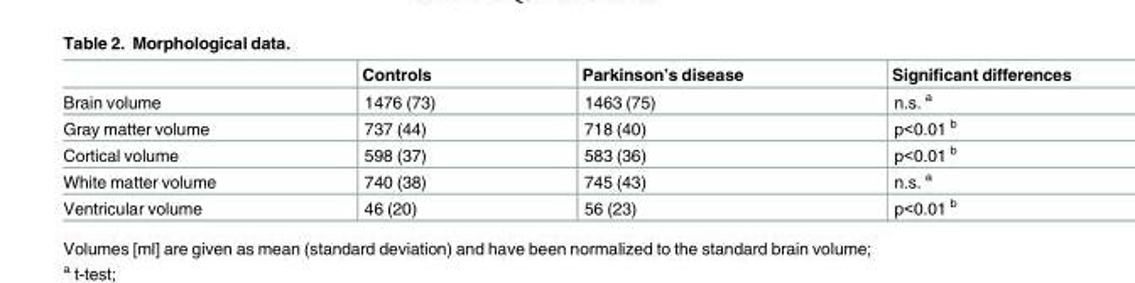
<table><thead><tr><td></td><td>Controls</td><td>Parkinson’s disease</td><td>Significant differences</td></tr></thead><tbody><tr><td>Brain volume</td><td>1476 (73)</td><td>1463 (75)</td><td>n.s. <sup>a</sup></td></tr><tr><td>Gray matter volume</td><td>737 (44)</td><td>718 (40)</td><td>p&lt;0.01 <sup>b</sup></td></tr><tr><td>Cortical volume</td><td>598 (37)</td><td>583 (36)</td><td>p&lt;0.01 <sup>b</sup></td></tr><tr><td>White matter volume</td><td>740 (38)</td><td>745 (43)</td><td>n.s. <sup>a</sup></td></tr><tr><td>Ventricular volume</td><td>46 (20)</td><td>56 (23)</td><td>p&lt;0.01 <sup>b</sup></td></tr></tbody></table>